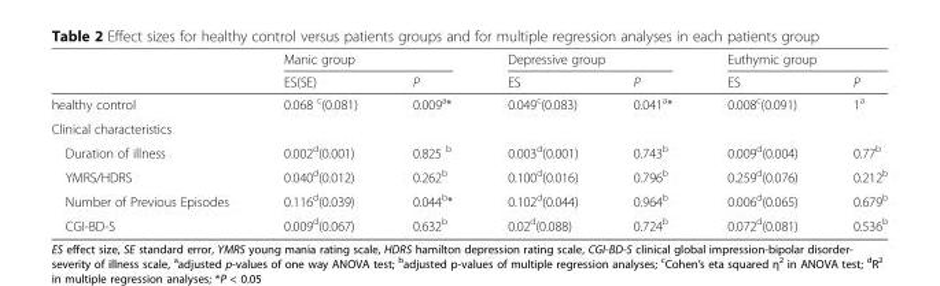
<table><thead><tr><td rowspan="2"></td><td colspan="2">Manic group</td><td colspan="2">Depressive group</td><td colspan="2">Euthymic group</td></tr><tr><td>ES(SE)</td><td>P</td><td>ES</td><td>P</td><td>ES</td><td>P</td></tr></thead><tbody><tr><td>healthy control</td><td>0.068 <sup>c</sup>(0.081)</td><td>0.009<sup>a</sup>*</td><td>0.049<sup>c</sup>(0.083)</td><td>0.041<sup>a</sup>*</td><td>0.008<sup>c</sup>(0.091)</td><td>1<sup>a</sup></td></tr><tr><td colspan="7">Clinical characteristics</td></tr><tr><td>Duration of illness</td><td>0.002<sup>d</sup>(0.001)</td><td>0.825 <sup>b</sup></td><td>0.003<sup>d</sup>(0.001)</td><td>0.743<sup>b</sup></td><td>0.009<sup>d</sup>(0.004)</td><td>0.77<sup>b</sup></td></tr><tr><td>YMRS/HDRS</td><td>0.040<sup>d</sup>(0.012)</td><td>0.262<sup>b</sup></td><td>0.100<sup>d</sup>(0.016)</td><td>0.796<sup>b</sup></td><td>0.259<sup>d</sup>(0.076)</td><td>0.212<sup>b</sup></td></tr><tr><td>Number of Previous Episodes</td><td>0.116<sup>d</sup>(0.039)</td><td>0.044<sup>b</sup>*</td><td>0.102<sup>d</sup>(0.044)</td><td>0.964<sup>b</sup></td><td>0.006<sup>d</sup>(0.065)</td><td>0.679<sup>b</sup></td></tr><tr><td>CGI-BD-S</td><td>0.009<sup>d</sup>(0.067)</td><td>0.632<sup>b</sup></td><td>0.02<sup>d</sup>(0.088)</td><td>0.724<sup>b</sup></td><td>0.072<sup>d</sup>(0.081)</td><td>0.536<sup>b</sup></td></tr></tbody></table>